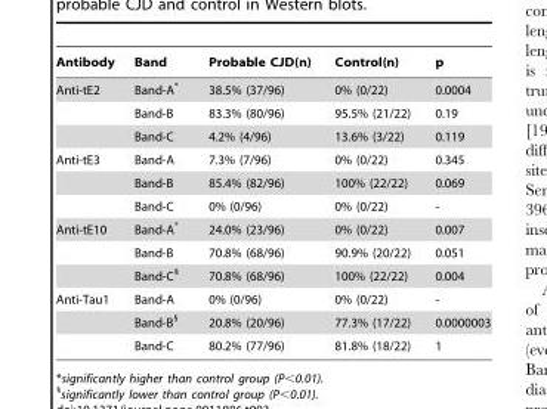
<table><thead><tr><td>Antibody</td><td>Band</td><td>Probable CJD(n)</td><td>Control(n)</td><td>p</td></tr></thead><tbody><tr><td rowspan="3">Anti-tE2</td><td>Band-A*</td><td>38.5% (37/96)</td><td>0% (0/22)</td><td>0.0004</td></tr><tr><td>Band-B</td><td>83.3% (80/96)</td><td>95.5% (21/22)</td><td>0.19</td></tr><tr><td>Band-C</td><td>4.2% (4/96)</td><td>13.6% (3/22)</td><td>0.119</td></tr><tr><td rowspan="3">Anti-tE3</td><td>Band-A</td><td>7.3% (7/96)</td><td>0% (0/22)</td><td>0.345</td></tr><tr><td>Band-B</td><td>85.4% (82/96)</td><td>100% (22/22)</td><td>0.069</td></tr><tr><td>Band-C</td><td>0% (0/96)</td><td>0% (0/22)</td><td>-</td></tr><tr><td rowspan="3">Anti-tE10</td><td>Band-A*</td><td>24.0% (23/96)</td><td>0% (0/22)</td><td>0.007</td></tr><tr><td>Band-B</td><td>70.8% (68/96)</td><td>90.9% (20/22)</td><td>0.051</td></tr><tr><td>Band-C§</td><td>70.8% (68/96)</td><td>100% (22/22)</td><td>0.004</td></tr><tr><td rowspan="3">Anti-Tau1</td><td>Band-A</td><td>0% (0/96)</td><td>0% (0/22)</td><td>-</td></tr><tr><td>Band-B§</td><td>20.8% (20/96)</td><td>77.3% (17/22)</td><td>0.0000003</td></tr><tr><td>Band-C</td><td>80.2% (77/96)</td><td>81.8% (18/22)</td><td>1</td></tr></tbody></table>